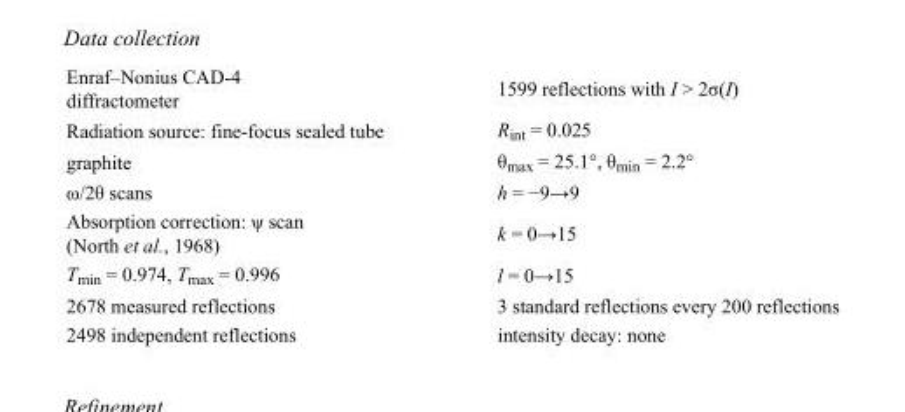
<table><tbody><tr><td>Enraf–Nonius CAD-4 diffractometer</td><td>1599 reflections with I &gt; 2σ(I)</td></tr><tr><td>Radiation source: fine-focus sealed tube</td><td>R<sub>int</sub> = 0.025</td></tr><tr><td>graphite</td><td>θ<sub>max</sub> = 25.1°, θ<sub>min</sub> = 2.2°</td></tr><tr><td>ω/2θ scans</td><td>h = −9→9</td></tr><tr><td>Absorption correction: ψ scan (North et al., 1968)</td><td>k = 0→15</td></tr><tr><td>T<sub>min</sub> = 0.974, T<sub>max</sub> = 0.996</td><td>l = 0→15</td></tr><tr><td>2678 measured reflections</td><td>3 standard reflections every 200 reflections</td></tr><tr><td>2498 independent reflections</td><td>intensity decay: none</td></tr></tbody></table>